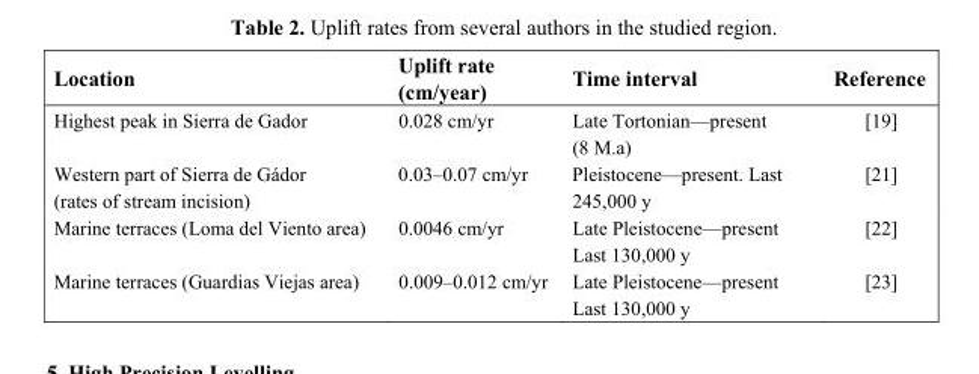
<table><thead><tr><td>Location</td><td>Uplift rate (cm/year)</td><td>Time interval</td><td>Reference</td></tr></thead><tbody><tr><td>Highest peak in Sierra de Gador</td><td>0.028 cm/yr</td><td>Late Tortonian—present (8 M.a)</td><td>[19]</td></tr><tr><td>Western part of Sierra de Gádor (rates of stream incision)</td><td>0.03–0.07 cm/yr</td><td>Pleistocene—present. Last 245,000 y</td><td>[21]</td></tr><tr><td>Marine terraces (Loma del Viento area)</td><td>0.0046 cm/yr</td><td>Late Pleistocene—present Last 130,000 y</td><td>[22]</td></tr><tr><td>Marine terraces (Guardias Viejas area)</td><td>0.009–0.012 cm/yr</td><td>Late Pleistocene—present Last 130,000 y</td><td>[23]</td></tr></tbody></table>